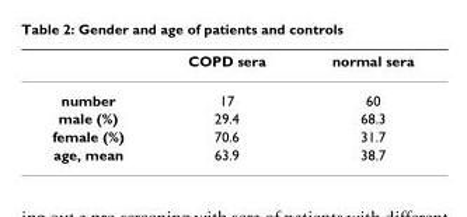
<table><thead><tr><td></td><td>COPD sera</td><td>normal sera</td></tr></thead><tbody><tr><td>number</td><td>17</td><td>60</td></tr><tr><td>male (%)</td><td>29.4</td><td>68.3</td></tr><tr><td>female (%)</td><td>70.6</td><td>31.7</td></tr><tr><td>age, mean</td><td>63.9</td><td>38.7</td></tr></tbody></table>